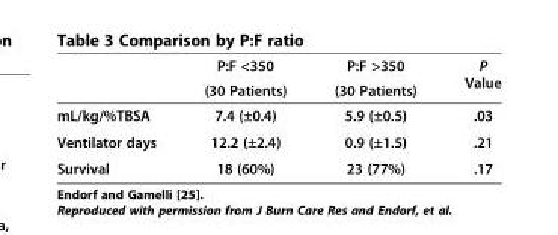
<table><thead><tr><td rowspan="2"></td><td rowspan="2">P:F &lt;350 (30 Patients)</td><td rowspan="2">P:F &gt;350 (30 Patients)</td><td rowspan="2">P Value</td></tr><tr></tr></thead><tbody><tr><td>mL/kg/%TBSA</td><td>7.4 (±0.4)</td><td>5.9 (±0.5)</td><td>.03</td></tr><tr><td>Ventilator days</td><td>12.2 (±2.4)</td><td>0.9 (±1.5)</td><td>.21</td></tr><tr><td>Survival</td><td>18 (60%)</td><td>23 (77%)</td><td>.17</td></tr></tbody></table>